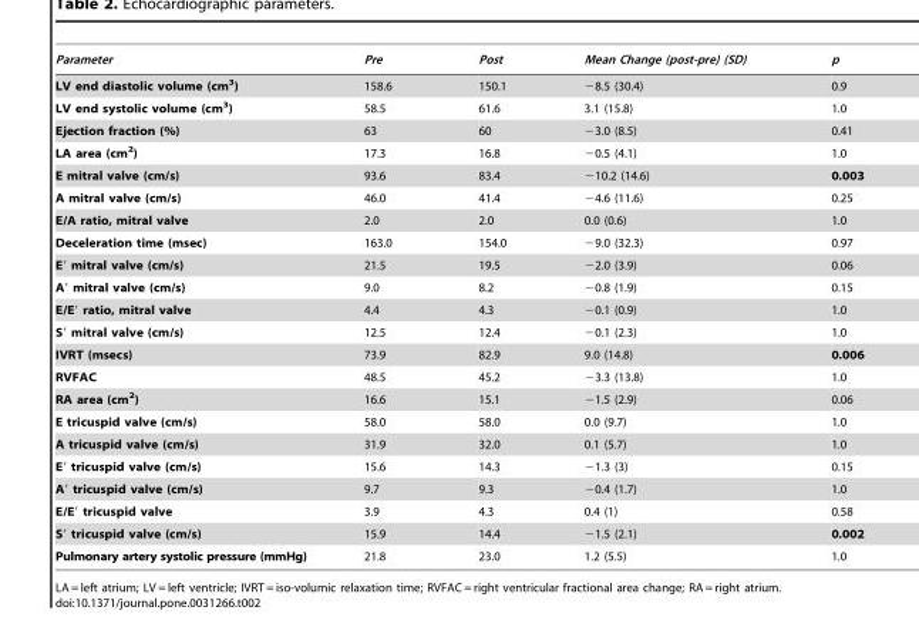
<table><thead><tr><td>Parameter</td><td>Pre</td><td>Post</td><td>Mean Change (post-pre) (SD)</td><td>p</td></tr></thead><tbody><tr><td>LV end diastolic volume (cm<sup>3</sup>)</td><td>158.6</td><td>150.1</td><td>−8.5 (30.4)</td><td>0.9</td></tr><tr><td>LV end systolic volume (cm<sup>3</sup>)</td><td>58.5</td><td>61.6</td><td>3.1 (15.8)</td><td>1.0</td></tr><tr><td>Ejection fraction (%)</td><td>63</td><td>60</td><td>−3.0 (8.5)</td><td>0.41</td></tr><tr><td>LA area (cm<sup>2</sup>)</td><td>17.3</td><td>16.8</td><td>−0.5 (4.1)</td><td>1.0</td></tr><tr><td>E mitral valve (cm/s)</td><td>93.6</td><td>83.4</td><td>−10.2 (14.6)</td><td>0.003</td></tr><tr><td>A mitral valve (cm/s)</td><td>46.0</td><td>41.4</td><td>−4.6 (11.6)</td><td>0.25</td></tr><tr><td>E/A ratio, mitral valve</td><td>2.0</td><td>2.0</td><td>0.0 (0.6)</td><td>1.0</td></tr><tr><td>Deceleration time (msec)</td><td>163.0</td><td>154.0</td><td>−9.0 (32.3)</td><td>0.97</td></tr><tr><td>E′ mitral valve (cm/s)</td><td>21.5</td><td>19.5</td><td>−2.0 (3.9)</td><td>0.06</td></tr><tr><td>A′ mitral valve (cm/s)</td><td>9.0</td><td>8.2</td><td>−0.8 (1.9)</td><td>0.15</td></tr><tr><td>E/E′ ratio, mitral valve</td><td>4.4</td><td>4.3</td><td>−0.1 (0.9)</td><td>1.0</td></tr><tr><td>S′ mitral valve (cm/s)</td><td>12.5</td><td>12.4</td><td>−0.1 (2.3)</td><td>1.0</td></tr><tr><td>IVRT (msecs)</td><td>73.9</td><td>82.9</td><td>9.0 (14.8)</td><td>0.006</td></tr><tr><td>RVFAC</td><td>48.5</td><td>45.2</td><td>−3.3 (13.8)</td><td>1.0</td></tr><tr><td>RA area (cm<sup>2</sup>)</td><td>16.6</td><td>15.1</td><td>−1.5 (2.9)</td><td>0.06</td></tr><tr><td>E tricuspid valve (cm/s)</td><td>58.0</td><td>58.0</td><td>0.0 (9.7)</td><td>1.0</td></tr><tr><td>A tricuspid valve (cm/s)</td><td>31.9</td><td>32.0</td><td>0.1 (5.7)</td><td>1.0</td></tr><tr><td>E′ tricuspid valve (cm/s)</td><td>15.6</td><td>14.3</td><td>−1.3 (3)</td><td>0.15</td></tr><tr><td>A′ tricuspid valve (cm/s)</td><td>9.7</td><td>9.3</td><td>−0.4 (1.7)</td><td>1.0</td></tr><tr><td>E/E′ tricuspid valve</td><td>3.9</td><td>4.3</td><td>0.4 (1)</td><td>0.58</td></tr><tr><td>S′ tricuspid valve (cm/s)</td><td>15.9</td><td>14.4</td><td>−1.5 (2.1)</td><td>0.002</td></tr><tr><td>Pulmonary artery systolic pressure (mmHg)</td><td>21.8</td><td>23.0</td><td>1.2 (5.5)</td><td>1.0</td></tr></tbody></table>